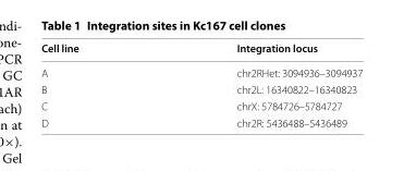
<table><thead><tr><td>Cell line</td><td>Integration locus</td></tr></thead><tbody><tr><td>A</td><td>chr2RHet: 3094936–3094937</td></tr><tr><td>B</td><td>chr2L: 16340822–16340823</td></tr><tr><td>C</td><td>chrX: 5784726–5784727</td></tr><tr><td>D</td><td>chr2R: 5436488–5436489</td></tr></tbody></table>